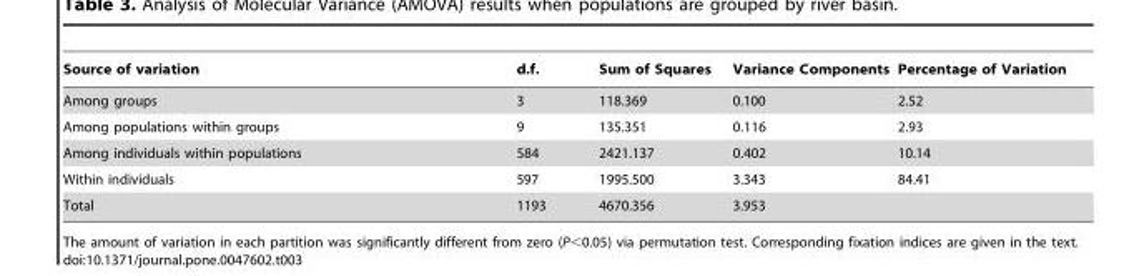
<table><thead><tr><td>Source of variation</td><td>d.f.</td><td>Sum of Squares</td><td>Variance Components</td><td>Percentage of Variation</td></tr></thead><tbody><tr><td>Among groups</td><td>3</td><td>118.369</td><td>0.100</td><td>2.52</td></tr><tr><td>Among populations within groups</td><td>9</td><td>135.351</td><td>0.116</td><td>2.93</td></tr><tr><td>Among individuals within populations</td><td>584</td><td>2421.137</td><td>0.402</td><td>10.14</td></tr><tr><td>Within individuals</td><td>597</td><td>1995.500</td><td>3.343</td><td>84.41</td></tr><tr><td>Total</td><td>1193</td><td>4670.356</td><td>3.953</td><td></td></tr></tbody></table>